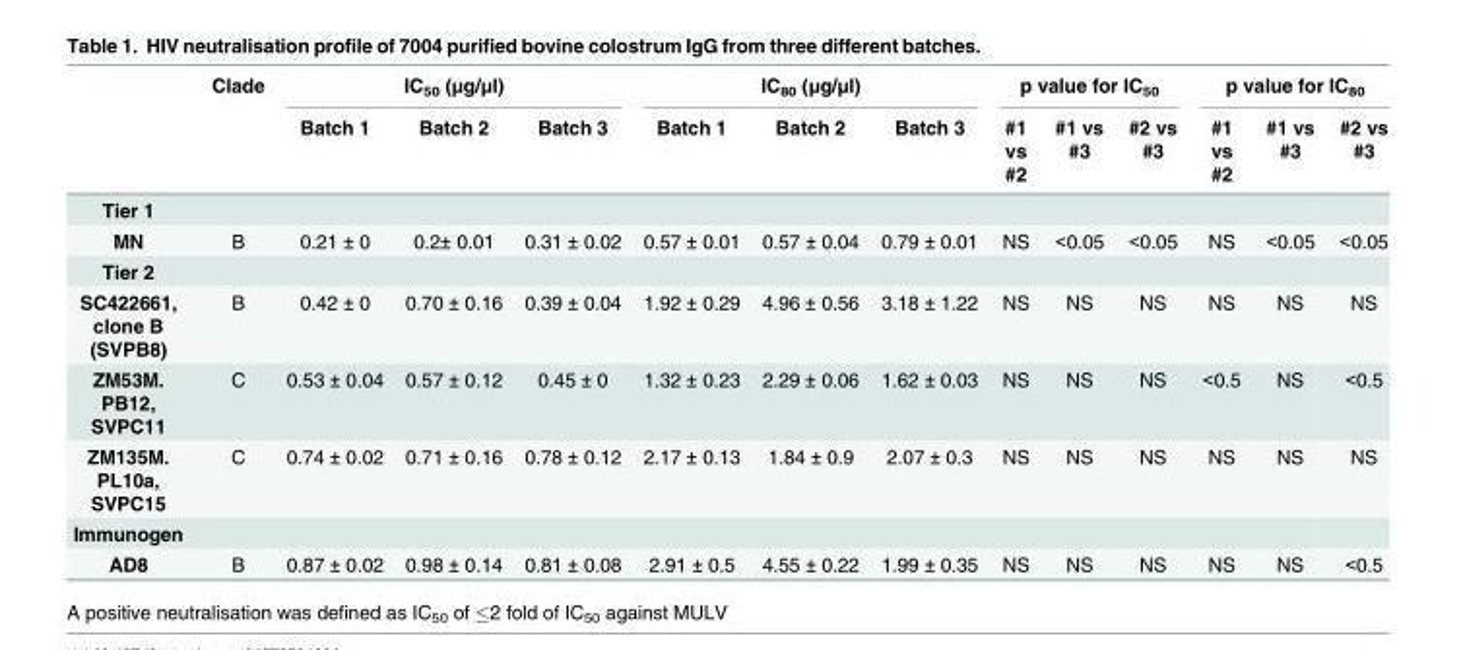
<table><thead><tr><td rowspan="2"></td><td rowspan="2">Clade</td><td colspan="3">IC<sub>50</sub> (μg/μl)</td><td colspan="3">IC<sub>80</sub> (μg/μl)</td><td colspan="3">p value for IC<sub>50</sub></td><td colspan="3">p value for IC<sub>80</sub></td></tr><tr><td>Batch 1</td><td>Batch 2</td><td>Batch 3</td><td>Batch 1</td><td>Batch 2</td><td>Batch 3</td><td>#1 vs #2</td><td>#1 vs #3</td><td>#2 vs #3</td><td>#1 vs #2</td><td>#1 vs #3</td><td>#2 vs #3</td></tr></thead><tbody><tr><td colspan="14">Tier 1</td></tr><tr><td>MN</td><td>B</td><td>0.21 ± 0</td><td>0.2± 0.01</td><td>0.31 ± 0.02</td><td>0.57 ± 0.01</td><td>0.57 ± 0.04</td><td>0.79 ± 0.01</td><td>NS</td><td>&lt;0.05</td><td>&lt;0.05</td><td>NS</td><td>&lt;0.05</td><td>&lt;0.05</td></tr><tr><td colspan="14">Tier 2</td></tr><tr><td>SC422661, clone B (SVPB8)</td><td>B</td><td>0.42 ± 0</td><td>0.70 ± 0.16</td><td>0.39 ± 0.04</td><td>1.92 ± 0.29</td><td>4.96 ± 0.56</td><td>3.18 ± 1.22</td><td>NS</td><td>NS</td><td>NS</td><td>NS</td><td>NS</td><td>NS</td></tr><tr><td>ZM53M. PB12, SVPC11</td><td>C</td><td>0.53 ± 0.04</td><td>0.57 ± 0.12</td><td>0.45 ± 0</td><td>1.32 ± 0.23</td><td>2.29 ± 0.06</td><td>1.62 ± 0.03</td><td>NS</td><td>NS</td><td>NS</td><td>&lt;0.5</td><td>NS</td><td>&lt;0.5</td></tr><tr><td>ZM135M. PL10a, SVPC15</td><td>C</td><td>0.74 ± 0.02</td><td>0.71 ± 0.16</td><td>0.78 ± 0.12</td><td>2.17 ± 0.13</td><td>1.84 ± 0.9</td><td>2.07 ± 0.3</td><td>NS</td><td>NS</td><td>NS</td><td>NS</td><td>NS</td><td>NS</td></tr><tr><td colspan="14">Immunogen</td></tr><tr><td>AD8</td><td>B</td><td>0.87 ± 0.02</td><td>0.98 ± 0.14</td><td>0.81 ± 0.08</td><td>2.91 ± 0.5</td><td>4.55 ± 0.22</td><td>1.99 ± 0.35</td><td>NS</td><td>NS</td><td>NS</td><td>NS</td><td>NS</td><td>&lt;0.5</td></tr></tbody></table>